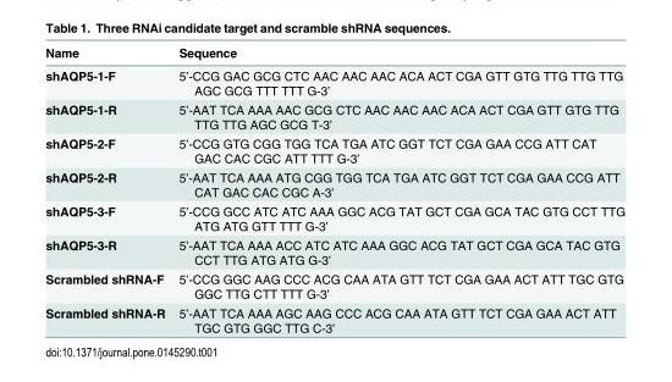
<table><thead><tr><td>Name</td><td>Sequence</td></tr></thead><tbody><tr><td>shAQP5-1-F</td><td>5’-CCG GAC GCG CTC AAC AAC AAC ACA ACT CGA GTT GTG TTG TTG TTG AGC GCG TTT TTT G-3’</td></tr><tr><td>shAQP5-1-R</td><td>5’-AAT TCA AAA AAC GCG CTC AAC AAC AAC ACA ACT CGA GTT GTG TTG TTG TTG AGC GCG T-3’</td></tr><tr><td>shAQP5-2-F</td><td>5’-CCG GTG CGG TGG TCA TGA ATC GGT TCT CGA GAA CCG ATT CAT GAC CAC CGC ATT TTT G-3’</td></tr><tr><td>shAQP5-2-R</td><td>5’-AAT TCA AAA ATG CGG TGG TCA TGA ATC GGT TCT CGA GAA CCG ATT CAT GAC CAC CGC A-3’</td></tr><tr><td>shAQP5-3-F</td><td>5’-CCG GCC ATC ATC AAA GGC ACG TAT GCT CGA GCA TAC GTG CCT TTG ATG ATG GTT TTT G-3’</td></tr><tr><td>shAQP5-3-R</td><td>5’-AAT TCA AAA ACC ATC ATC AAA GGC ACG TAT GCT CGA GCA TAC GTG CCT TTG ATG ATG G-3’</td></tr><tr><td>Scrambled shRNA-F</td><td>5’-CCG GGC AAG CCC ACG CAA ATA GTT TCT CGA GAA ACT ATT TGC GTG GGC TTG CTT TTT G-3’</td></tr><tr><td>Scrambled shRNA-R</td><td>5’-AAT TCA AAA AGC AAG CCC ACG CAA ATA GTT TCT CGA GAA ACT ATT TGC GTG GGC TTG C-3’</td></tr></tbody></table>